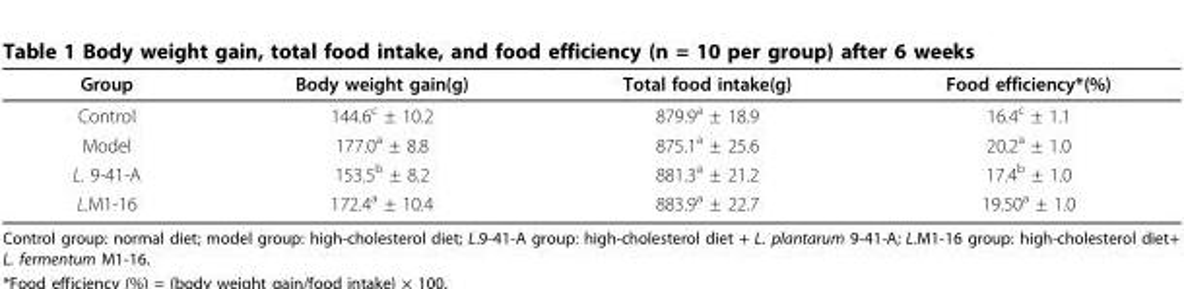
<table><thead><tr><td>Group</td><td>Body weight gain(g)</td><td>Total food intake(g)</td><td>Food efficiency*(%)</td></tr></thead><tbody><tr><td>Control</td><td>144.6<sup>c</sup> ± 10.2</td><td>879.9<sup>a</sup> ± 18.9</td><td>16.4<sup>c</sup> ± 1.1</td></tr><tr><td>Model</td><td>177.0<sup>a</sup> ± 8.8</td><td>875.1<sup>a</sup> ± 25.6</td><td>20.2<sup>a</sup> ± 1.0</td></tr><tr><td>L. 9-41-A</td><td>153.5<sup>b</sup> ± 8.2</td><td>881.3<sup>a</sup> ± 21.2</td><td>17.4<sup>b</sup> ± 1.0</td></tr><tr><td>L.M1-16</td><td>172.4<sup>a</sup> ± 10.4</td><td>883.9<sup>a</sup> ± 22.7</td><td>19.50<sup>a</sup> ± 1.0</td></tr></tbody></table>